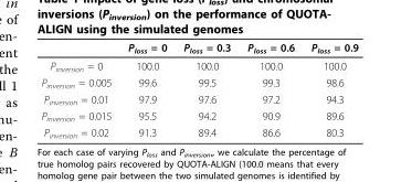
<table><thead><tr><td></td><td>P<sub>loss</sub> = 0</td><td>P<sub>loss</sub> = 0.3</td><td>P<sub>loss</sub> = 0.6</td><td>P<sub>loss</sub> = 0.9</td></tr></thead><tbody><tr><td>P<sub>inversion</sub> = 0</td><td>100.0</td><td>100.0</td><td>100.0</td><td>100.0</td></tr><tr><td>P<sub>inversion</sub> = 0.005</td><td>99.6</td><td>99.5</td><td>99.3</td><td>98.6</td></tr><tr><td>P<sub>inversion</sub> = 0.01</td><td>97.9</td><td>97.6</td><td>97.2</td><td>94.3</td></tr><tr><td>P<sub>inversion</sub> = 0.015</td><td>95.5</td><td>94.2</td><td>90.9</td><td>89.6</td></tr><tr><td>P<sub>inversion</sub> = 0.02</td><td>91.3</td><td>89.4</td><td>86.6</td><td>80.3</td></tr></tbody></table>